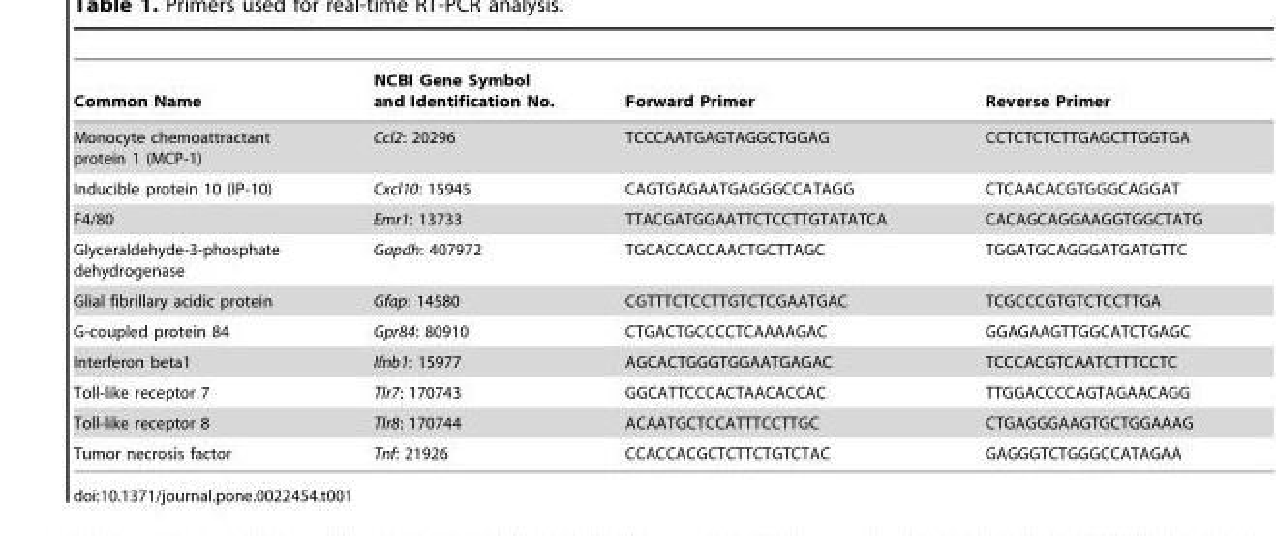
<table><thead><tr><td>Common Name</td><td>NCBI Gene Symbol and Identification No.</td><td>Forward Primer</td><td>Reverse Primer</td></tr></thead><tbody><tr><td>Monocyte chemoattractant protein 1 (MCP-1)</td><td>Ccl2: 20296</td><td>TCCCAATGAGTAGGCTGGAG</td><td>CCTCTCTCTTGAGCTTGGTGA</td></tr><tr><td>Inducible protein 10 (IP-10)</td><td>Cxcl10: 15945</td><td>CAGTGAGAATGAGGGCCATAGG</td><td>CTCAACACGTGGGCAGGAT</td></tr><tr><td>F4/80</td><td>Emr1: 13733</td><td>TTACGATGGAATTCTCCTTGTATATCA</td><td>CACAGCAGGAAGGTGGCTATG</td></tr><tr><td>Glyceraldehyde-3-phosphate dehydrogenase</td><td>Gapdh: 407972</td><td>TGCACCACCAACTGCTTAGC</td><td>TGGATGCAGGGATGATGTTC</td></tr><tr><td>Glial fibrillary acidic protein</td><td>Gfap: 14580</td><td>CGTTTCTCCTTGTCTCGAATGAC</td><td>TCGCCCGTGTCTCCTTGA</td></tr><tr><td>G-coupled protein 84</td><td>Gpr84: 80910</td><td>CTGACTGCCCCTCAAAAGAC</td><td>GGAGAAGTTGGCATCTGAGC</td></tr><tr><td>Interferon beta1</td><td>Ifnb1: 15977</td><td>AGCACTGGGTGGAATGAGAC</td><td>TCCCACGTCAATCTTTCCTC</td></tr><tr><td>Toll-like receptor 7</td><td>Tlr7: 170743</td><td>GGCATTCCCACTAACACCAC</td><td>TTGGACCCCAGTAGAACAGG</td></tr><tr><td>Toll-like receptor 8</td><td>Tlr8: 170744</td><td>ACAATGCTCCATTTCCTTGC</td><td>CTGAGGGAAGTGCTGGAAAG</td></tr><tr><td>Tumor necrosis factor</td><td>Tnf: 21926</td><td>CCACCACGCTCTTCTGTCTAC</td><td>GAGGGTCTGGGCCATAGAA</td></tr></tbody></table>